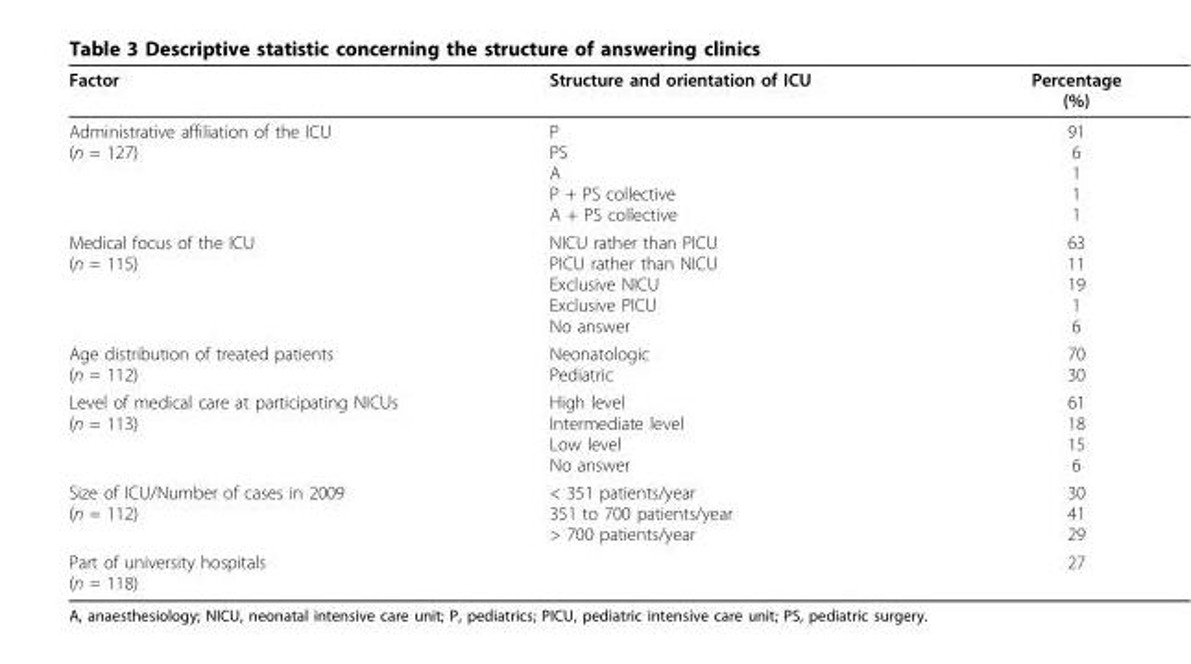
<table><thead><tr><td>Factor</td><td>Structure and orientation of ICU</td><td>Percentage (%)</td></tr></thead><tbody><tr><td>Administrative affiliation of the ICU (n = 127)</td><td>P PS A P + PS collective A + PS collective</td><td>91 6 1 1 1</td></tr><tr><td>Medical focus of the ICU (n = 115)</td><td>NICU rather than PICU PICU rather than NICU Exclusive NICU Exclusive PICU No answer</td><td>63 11 19 1 6</td></tr><tr><td>Age distribution of treated patients (n = 112)</td><td>Neonatologic Pediatric</td><td>70 30</td></tr><tr><td>Level of medical care at participating NICUs (n = 113)</td><td>High level Intermediate level Low level No answer</td><td>61 18 15 6</td></tr><tr><td>Size of ICU/Number of cases in 2009 (n = 112)</td><td>&lt; 351 patients/year 351 to 700 patients/year &gt; 700 patients/year</td><td>30 41 29</td></tr><tr><td>Part of university hospitals (n = 118)</td><td></td><td>27</td></tr></tbody></table>